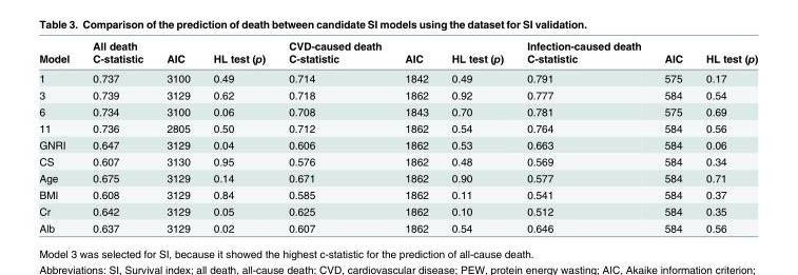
<table><thead><tr><td rowspan="2">Model</td><td rowspan="2">All death C-statistic</td><td rowspan="2">AIC</td><td rowspan="2">HL test (p)</td><td rowspan="2">CVD-caused death C-statistic</td><td rowspan="2">AIC</td><td rowspan="2">HL test (p)</td><td rowspan="2">Infection-caused death C-statistic</td><td rowspan="2">AIC</td><td rowspan="2">HL test (p)</td></tr><tr></tr></thead><tbody><tr><td>1</td><td>0.737</td><td>3100</td><td>0.49</td><td>0.714</td><td>1842</td><td>0.49</td><td>0.791</td><td>575</td><td>0.17</td></tr><tr><td>3</td><td>0.739</td><td>3129</td><td>0.62</td><td>0.718</td><td>1862</td><td>0.92</td><td>0.777</td><td>584</td><td>0.54</td></tr><tr><td>6</td><td>0.734</td><td>3100</td><td>0.06</td><td>0.708</td><td>1843</td><td>0.70</td><td>0.781</td><td>575</td><td>0.69</td></tr><tr><td>11</td><td>0.736</td><td>2805</td><td>0.50</td><td>0.712</td><td>1862</td><td>0.54</td><td>0.764</td><td>584</td><td>0.56</td></tr><tr><td>GNRI</td><td>0.647</td><td>3129</td><td>0.04</td><td>0.606</td><td>1862</td><td>0.53</td><td>0.663</td><td>584</td><td>0.06</td></tr><tr><td>CS</td><td>0.607</td><td>3130</td><td>0.95</td><td>0.576</td><td>1862</td><td>0.48</td><td>0.569</td><td>584</td><td>0.34</td></tr><tr><td>Age</td><td>0.675</td><td>3129</td><td>0.14</td><td>0.671</td><td>1862</td><td>0.90</td><td>0.577</td><td>584</td><td>0.71</td></tr><tr><td>BMI</td><td>0.608</td><td>3129</td><td>0.84</td><td>0.585</td><td>1862</td><td>0.11</td><td>0.541</td><td>584</td><td>0.37</td></tr><tr><td>Cr</td><td>0.642</td><td>3129</td><td>0.05</td><td>0.625</td><td>1862</td><td>0.10</td><td>0.512</td><td>584</td><td>0.35</td></tr><tr><td>Alb</td><td>0.637</td><td>3129</td><td>0.02</td><td>0.607</td><td>1862</td><td>0.54</td><td>0.646</td><td>584</td><td>0.56</td></tr></tbody></table>